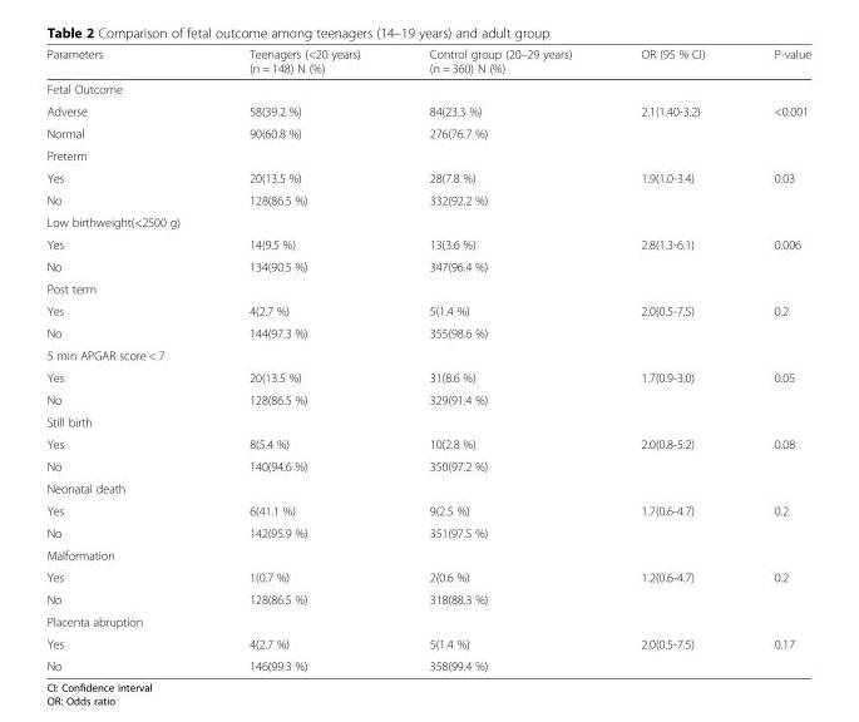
<table><thead><tr><td>Parameters</td><td>Teenagers (&lt;20 years) (n = 148) N (%)</td><td>Control group (20–29 years) (n = 360) N (%)</td><td>OR (95 % CI)</td><td>P-value</td></tr></thead><tbody><tr><td colspan="5">Fetal Outcome</td></tr><tr><td>Adverse</td><td>58(39.2 %)</td><td>84(23.3 %)</td><td>2.1(1.40-3.2)</td><td>&lt;0.001</td></tr><tr><td>Normal</td><td>90(60.8 %)</td><td>276(76.7 %)</td><td></td><td></td></tr><tr><td colspan="5">Preterm</td></tr><tr><td>Yes</td><td>20(13.5 %)</td><td>28(7.8 %)</td><td>1.9(1.0-3.4)</td><td>0.03</td></tr><tr><td>No</td><td>128(86.5 %)</td><td>332(92.2 %)</td><td></td><td></td></tr><tr><td colspan="5">Low birthweight(&lt;2500 g)</td></tr><tr><td>Yes</td><td>14(9.5 %)</td><td>13(3.6 %)</td><td>2.8(1.3-6.1)</td><td>0.006</td></tr><tr><td>No</td><td>134(90.5 %)</td><td>347(96.4 %)</td><td></td><td></td></tr><tr><td colspan="5">Post term</td></tr><tr><td>Yes</td><td>4(2.7 %)</td><td>5(1.4 %)</td><td>2.0(0.5-7.5)</td><td>0.2</td></tr><tr><td>No</td><td>144(97.3 %)</td><td>355(98.6 %)</td><td></td><td></td></tr><tr><td colspan="5">5 min APGAR score &lt; 7</td></tr><tr><td>Yes</td><td>20(13.5 %)</td><td>31(8.6 %)</td><td>1.7(0.9-3.0)</td><td>0.05</td></tr><tr><td>No</td><td>128(86.5 %)</td><td>329(91.4 %)</td><td></td><td></td></tr><tr><td colspan="5">Still birth</td></tr><tr><td>Yes</td><td>8(5.4 %)</td><td>10(2.8 %)</td><td>2.0(0.8-5.2)</td><td>0.08</td></tr><tr><td>No</td><td>140(94.6 %)</td><td>350(97.2 %)</td><td></td><td></td></tr><tr><td colspan="5">Neonatal death</td></tr><tr><td>Yes</td><td>6(41.1 %)</td><td>9(2.5 %)</td><td>1.7(0.6-4.7)</td><td>0.2</td></tr><tr><td>No</td><td>142(95.9 %)</td><td>351(97.5 %)</td><td></td><td></td></tr><tr><td colspan="5">Malformation</td></tr><tr><td>Yes</td><td>1(0.7 %)</td><td>2(0.6 %)</td><td>1.2(0.6-4.7)</td><td>0.2</td></tr><tr><td>No</td><td>128(86.5 %)</td><td>318(88.3 %)</td><td></td><td></td></tr><tr><td colspan="5">Placenta abruption</td></tr><tr><td>Yes</td><td>4(2.7 %)</td><td>5(1.4 %)</td><td>2.0(0.5-7.5)</td><td>0.17</td></tr><tr><td>No</td><td>146(99.3 %)</td><td>358(99.4 %)</td><td></td><td></td></tr></tbody></table>